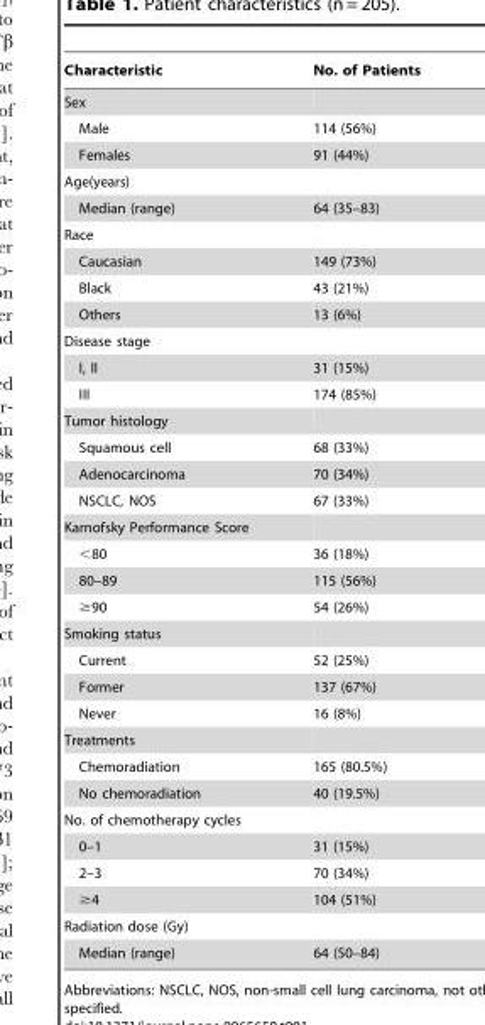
<table><thead><tr><td>Characteristic</td><td>No. of Patients</td></tr></thead><tbody><tr><td colspan="2">Sex</td></tr><tr><td>Male</td><td>114 (56%)</td></tr><tr><td>Females</td><td>91 (44%)</td></tr><tr><td colspan="2">Age(years)</td></tr><tr><td>Median (range)</td><td>64 (35–83)</td></tr><tr><td colspan="2">Race</td></tr><tr><td>Caucasian</td><td>149 (73%)</td></tr><tr><td>Black</td><td>43 (21%)</td></tr><tr><td>Others</td><td>13 (6%)</td></tr><tr><td colspan="2">Disease stage</td></tr><tr><td>I, II</td><td>31 (15%)</td></tr><tr><td>III</td><td>174 (85%)</td></tr><tr><td colspan="2">Tumor histology</td></tr><tr><td>Squamous cell</td><td>68 (33%)</td></tr><tr><td>Adenocarcinoma</td><td>70 (34%)</td></tr><tr><td>NSCLC, NOS</td><td>67 (33%)</td></tr><tr><td colspan="2">Karnofsky Performance Score</td></tr><tr><td>&lt;80</td><td>36 (18%)</td></tr><tr><td>80–89</td><td>115 (56%)</td></tr><tr><td>≥90</td><td>54 (26%)</td></tr><tr><td colspan="2">Smoking status</td></tr><tr><td>Current</td><td>52 (25%)</td></tr><tr><td>Former</td><td>137 (67%)</td></tr><tr><td>Never</td><td>16 (8%)</td></tr><tr><td colspan="2">Treatments</td></tr><tr><td>Chemoradiation</td><td>165 (80.5%)</td></tr><tr><td>No chemoradiation</td><td>40 (19.5%)</td></tr><tr><td colspan="2">No. of chemotherapy cycles</td></tr><tr><td>0–1</td><td>31 (15%)</td></tr><tr><td>2–3</td><td>70 (34%)</td></tr><tr><td>≥4</td><td>104 (51%)</td></tr><tr><td colspan="2">Radiation dose (Gy)</td></tr><tr><td>Median (range)</td><td>64 (50–84)</td></tr></tbody></table>